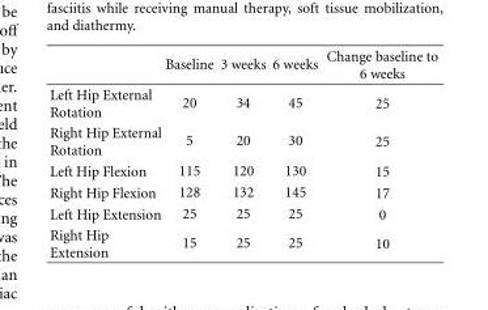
<table><thead><tr><td></td><td>Baseline</td><td>3 weeks</td><td>6 weeks</td><td>Change baseline to 6 weeks</td></tr></thead><tbody><tr><td>Left Hip External Rotation</td><td>20</td><td>34</td><td>45</td><td>25</td></tr><tr><td>Right Hip External Rotation</td><td>5</td><td>20</td><td>30</td><td>25</td></tr><tr><td>Left Hip Flexion</td><td>115</td><td>120</td><td>130</td><td>15</td></tr><tr><td>Right Hip Flexion</td><td>128</td><td>132</td><td>145</td><td>17</td></tr><tr><td>Left Hip Extension</td><td>25</td><td>25</td><td>25</td><td>0</td></tr><tr><td>Right Hip Extension</td><td>15</td><td>25</td><td>25</td><td>10</td></tr></tbody></table>